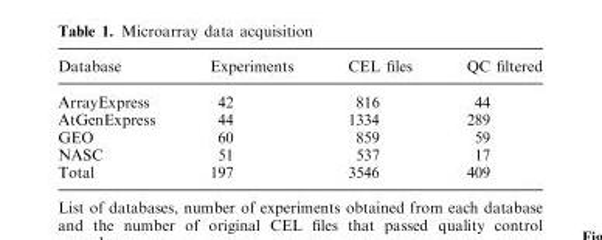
<table><thead><tr><td>Database</td><td>Experiments</td><td>CEL files</td><td>QC filtered</td></tr></thead><tbody><tr><td>ArrayExpress</td><td>42</td><td>816</td><td>44</td></tr><tr><td>AtGenExpress</td><td>44</td><td>1334</td><td>289</td></tr><tr><td>GEO</td><td>60</td><td>859</td><td>59</td></tr><tr><td>NASC</td><td>51</td><td>537</td><td>17</td></tr><tr><td>Total</td><td>197</td><td>3546</td><td>409</td></tr></tbody></table>